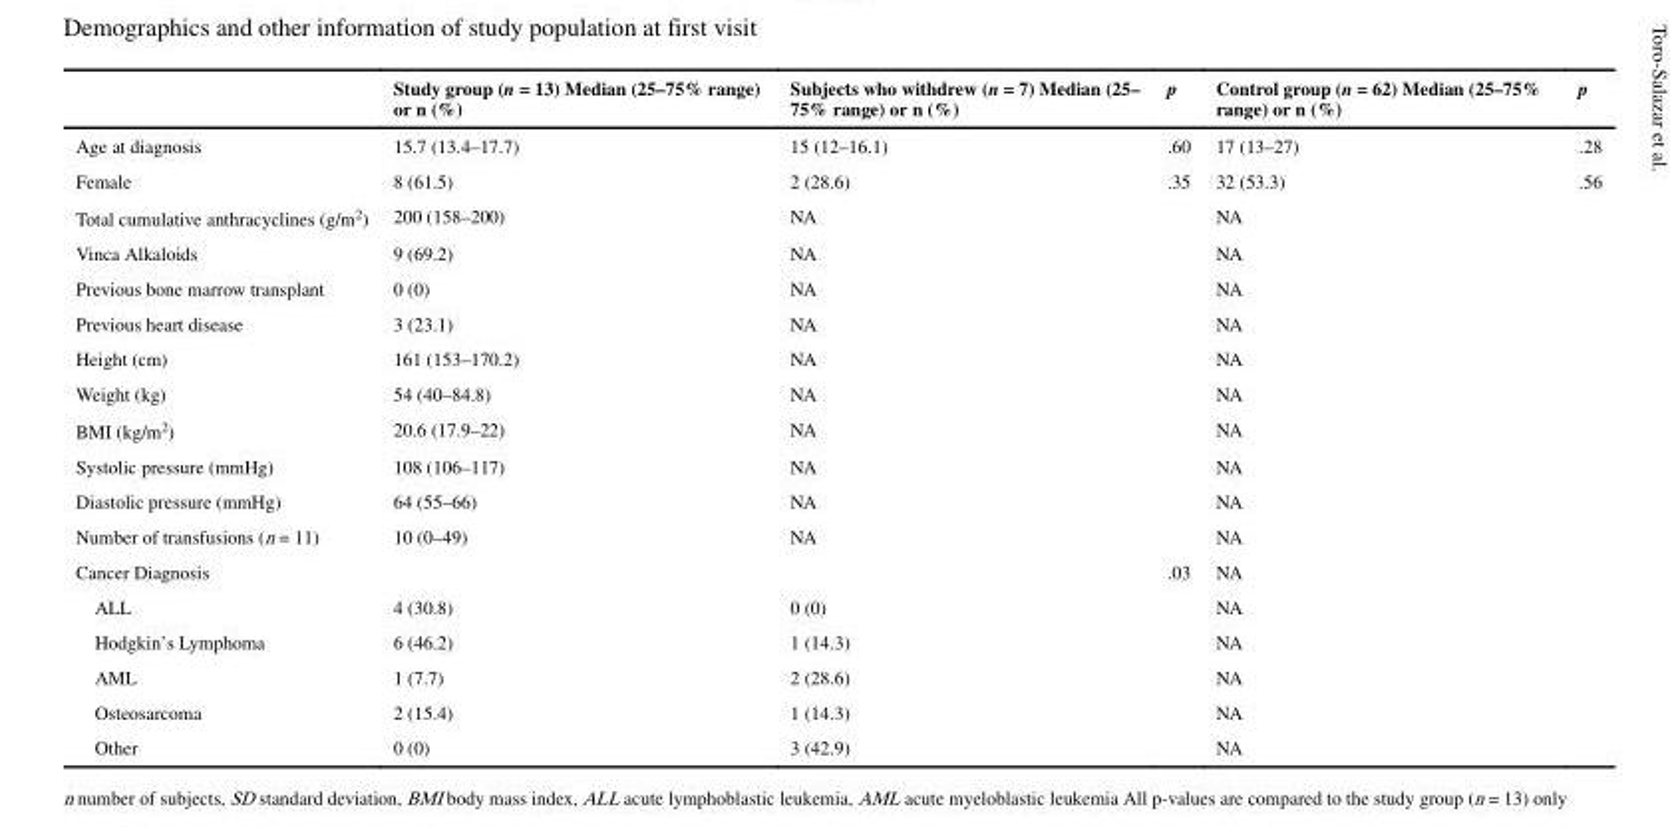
<table><thead><tr><td></td><td>Study group (n = 13) Median (25–75% range) or n (%)</td><td>Subjects who withdrew (n = 7) Median (25– 75% range) or n (%)</td><td>p</td><td>Control group (n = 62) Median (25–75% range) or n (%)</td><td>p</td></tr></thead><tbody><tr><td>Age at diagnosis</td><td>15.7 (13.4–17.7)</td><td>15 (12–16.1)</td><td>.60</td><td>17 (13–27)</td><td>.28</td></tr><tr><td>Female</td><td>8 (61.5)</td><td>2 (28.6)</td><td>.35</td><td>32 (53.3)</td><td>.56</td></tr><tr><td>Total cumulative anthracyclines (g/m<sup>2</sup>)</td><td>200 (158–200)</td><td>NA</td><td></td><td>NA</td><td></td></tr><tr><td>Vinca Alkaloids</td><td>9 (69.2)</td><td>NA</td><td></td><td>NA</td><td></td></tr><tr><td>Previous bone marrow transplant</td><td>0 (0)</td><td>NA</td><td></td><td>NA</td><td></td></tr><tr><td>Previous heart disease</td><td>3 (23.1)</td><td>NA</td><td></td><td>NA</td><td></td></tr><tr><td>Height (cm)</td><td>161 (153–170.2)</td><td>NA</td><td></td><td>NA</td><td></td></tr><tr><td>Weight (kg)</td><td>54 (40–84.8)</td><td>NA</td><td></td><td>NA</td><td></td></tr><tr><td>BMI (kg/m<sup>2</sup>)</td><td>20.6 (17.9–22)</td><td>NA</td><td></td><td>NA</td><td></td></tr><tr><td>Systolic pressure (mmHg)</td><td>108 (106–117)</td><td>NA</td><td></td><td>NA</td><td></td></tr><tr><td>Diastolic pressure (mmHg)</td><td>64 (55–66)</td><td>NA</td><td></td><td>NA</td><td></td></tr><tr><td>Number of transfusions (n = 11)</td><td>10 (0–49)</td><td>NA</td><td></td><td>NA</td><td></td></tr><tr><td>Cancer Diagnosis</td><td></td><td></td><td>.03</td><td>NA</td><td></td></tr><tr><td>ALL</td><td>4 (30.8)</td><td>0 (0)</td><td></td><td>NA</td><td></td></tr><tr><td>Hodgkin’s Lymphoma</td><td>6 (46.2)</td><td>1 (14.3)</td><td></td><td>NA</td><td></td></tr><tr><td>AML</td><td>1 (7.7)</td><td>2 (28.6)</td><td></td><td>NA</td><td></td></tr><tr><td>Osteosarcoma</td><td>2 (15.4)</td><td>1 (14.3)</td><td></td><td>NA</td><td></td></tr><tr><td>Other</td><td>0 (0)</td><td>3 (42.9)</td><td></td><td>NA</td><td></td></tr></tbody></table>